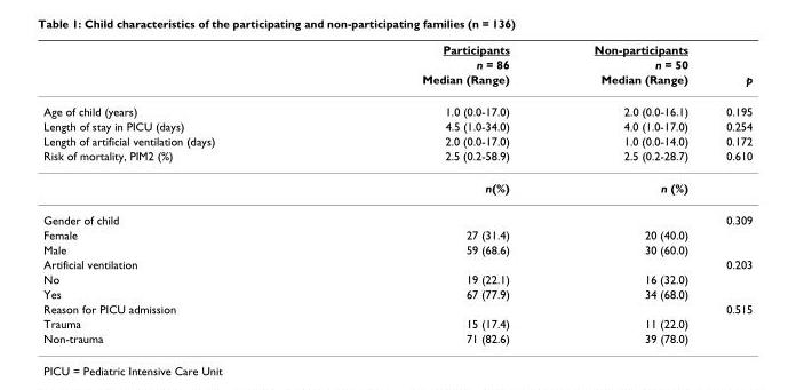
<table><thead><tr><td rowspan="3"></td><td rowspan="3">Participants n = 86 Median (Range)</td><td rowspan="3">Non-participants n = 50 Median (Range)</td><td rowspan="3">p</td></tr><tr></tr><tr></tr></thead><tbody><tr><td>Age of child (years)</td><td>1.0 (0.0-17.0)</td><td>2.0 (0.0-16.1)</td><td>0.195</td></tr><tr><td>Length of stay in PICU (days)</td><td>4.5 (1.0-34.0)</td><td>4.0 (1.0-17.0)</td><td>0.254</td></tr><tr><td>Length of artificial ventilation (days)</td><td>2.0 (0.0-17.0)</td><td>1.0 (0.0-14.0)</td><td>0.172</td></tr><tr><td rowspan="2">Risk of mortality, PIM2 (%)</td><td>2.5 (0.2-58.9)</td><td>2.5 (0.2-28.7)</td><td>0.610</td></tr><tr><td>n(%)</td><td>n (%)</td><td></td></tr><tr><td>Gender of child</td><td></td><td></td><td>0.309</td></tr><tr><td>Female</td><td>27 (31.4)</td><td>20 (40.0)</td><td></td></tr><tr><td>Male</td><td>59 (68.6)</td><td>30 (60.0)</td><td></td></tr><tr><td>Artificial ventilation</td><td></td><td></td><td>0.203</td></tr><tr><td>No</td><td>19 (22.1)</td><td>16 (32.0)</td><td></td></tr><tr><td>Yes</td><td>67 (77.9)</td><td>34 (68.0)</td><td></td></tr><tr><td>Reason for PICU admission</td><td></td><td></td><td>0.515</td></tr><tr><td>Trauma</td><td>15 (17.4)</td><td>11 (22.0)</td><td></td></tr><tr><td>Non-trauma</td><td>71 (82.6)</td><td>39 (78.0)</td><td></td></tr></tbody></table>